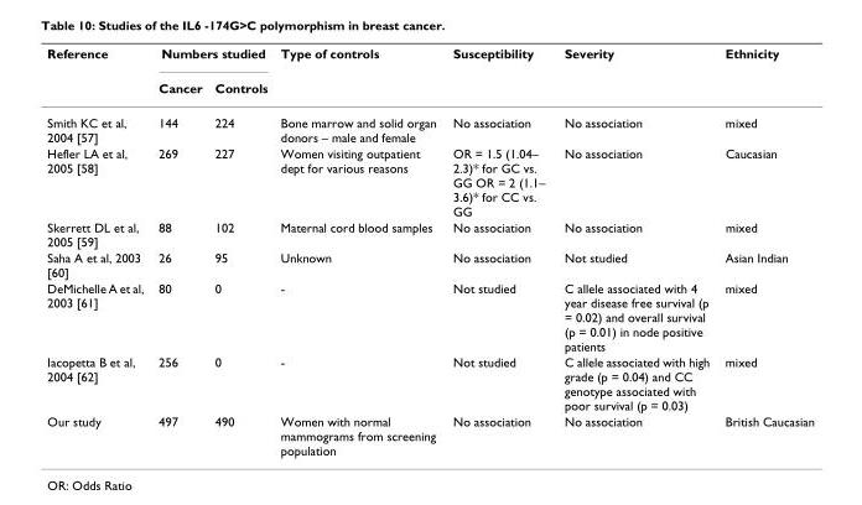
<table><thead><tr><td rowspan="2">Reference</td><td colspan="2">Numbers studied</td><td rowspan="2">Type of controls</td><td rowspan="2">Susceptibility</td><td rowspan="2">Severity</td><td rowspan="2">Ethnicity</td></tr><tr><td>Cancer</td><td>Controls</td></tr></thead><tbody><tr><td>Smith KC et al, 2004 [57]</td><td>144</td><td>224</td><td>Bone marrow and solid organ donors – male and female</td><td>No association</td><td>No association</td><td>mixed</td></tr><tr><td>Hefler LA et al, 2005 [58]</td><td>269</td><td>227</td><td>Women visiting outpatient dept for various reasons</td><td>OR = 1.5 (1.04– 2.3)* for GC vs. GG OR = 2 (1.1– 3.6)* for CC vs. GG</td><td>No association</td><td>Caucasian</td></tr><tr><td>Skerrett DL et al, 2005 [59]</td><td>88</td><td>102</td><td>Maternal cord blood samples</td><td>No association</td><td>No association</td><td>mixed</td></tr><tr><td>Saha A et al, 2003 [60]</td><td>26</td><td>95</td><td>Unknown</td><td>No association</td><td>Not studied</td><td>Asian Indian</td></tr><tr><td>DeMichelle A et al, 2003 [61]</td><td>80</td><td>0</td><td>-</td><td>Not studied</td><td>C allele associated with 4 year disease free survival (p = 0.02) and overall survival (p = 0.01) in node positive patients</td><td>mixed</td></tr><tr><td>Iacopetta B et al, 2004 [62]</td><td>256</td><td>0</td><td>-</td><td>Not studied</td><td>C allele associated with high grade (p = 0.04) and CC genotype associated with poor survival (p = 0.03)</td><td>mixed</td></tr><tr><td>Our study</td><td>497</td><td>490</td><td>Women with normal mammograms from screening population</td><td>No association</td><td>No association</td><td>British Caucasian</td></tr></tbody></table>